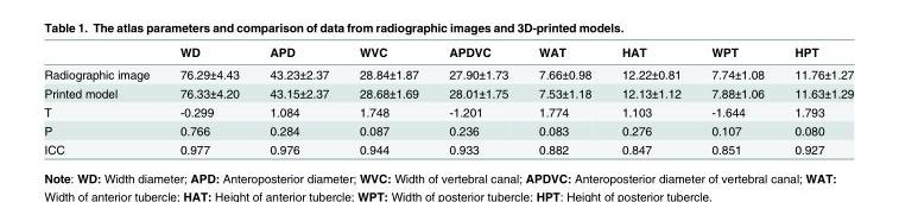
<table><thead><tr><td></td><td>WD</td><td>APD</td><td>WVC</td><td>APDVC</td><td>WAT</td><td>HAT</td><td>WPT</td><td>HPT</td></tr></thead><tbody><tr><td>Radiographic image</td><td>76.29±4.43</td><td>43.23±2.37</td><td>28.84±1.87</td><td>27.90±1.73</td><td>7.66±0.98</td><td>12.22±0.81</td><td>7.74±1.08</td><td>11.76±1.27</td></tr><tr><td>Printed model</td><td>76.33±4.20</td><td>43.15±2.37</td><td>28.68±1.69</td><td>28.01±1.75</td><td>7.53±1.18</td><td>12.13±1.12</td><td>7.88±1.06</td><td>11.63±1.29</td></tr><tr><td>T</td><td>-0.299</td><td>1.084</td><td>1.748</td><td>-1.201</td><td>1.774</td><td>1.103</td><td>-1.644</td><td>1.793</td></tr><tr><td>P</td><td>0.766</td><td>0.284</td><td>0.087</td><td>0.236</td><td>0.083</td><td>0.276</td><td>0.107</td><td>0.080</td></tr><tr><td>ICC</td><td>0.977</td><td>0.976</td><td>0.944</td><td>0.933</td><td>0.882</td><td>0.847</td><td>0.851</td><td>0.927</td></tr></tbody></table>